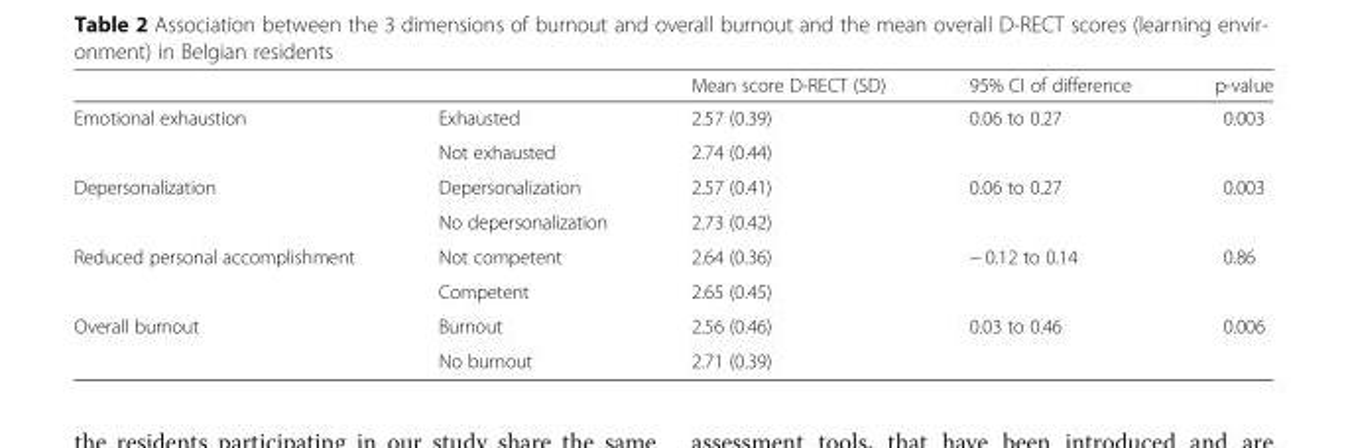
<table><thead><tr><td></td><td></td><td>Mean score D-RECT (SD)</td><td>95% CI of difference</td><td>p-value</td></tr></thead><tbody><tr><td rowspan="2">Emotional exhaustion</td><td>Exhausted</td><td>2.57 (0.39)</td><td>0.06 to 0.27</td><td>0.003</td></tr><tr><td>Not exhausted</td><td>2.74 (0.44)</td><td></td><td></td></tr><tr><td rowspan="2">Depersonalization</td><td>Depersonalization</td><td>2.57 (0.41)</td><td>0.06 to 0.27</td><td>0.003</td></tr><tr><td>No depersonalization</td><td>2.73 (0.42)</td><td></td><td></td></tr><tr><td rowspan="2">Reduced personal accomplishment</td><td>Not competent</td><td>2.64 (0.36)</td><td>− 0.12 to 0.14</td><td>0.86</td></tr><tr><td>Competent</td><td>2.65 (0.45)</td><td></td><td></td></tr><tr><td rowspan="2">Overall burnout</td><td>Burnout</td><td>2.56 (0.46)</td><td>0.03 to 0.46</td><td>0.006</td></tr><tr><td>No burnout</td><td>2.71 (0.39)</td><td></td><td></td></tr></tbody></table>